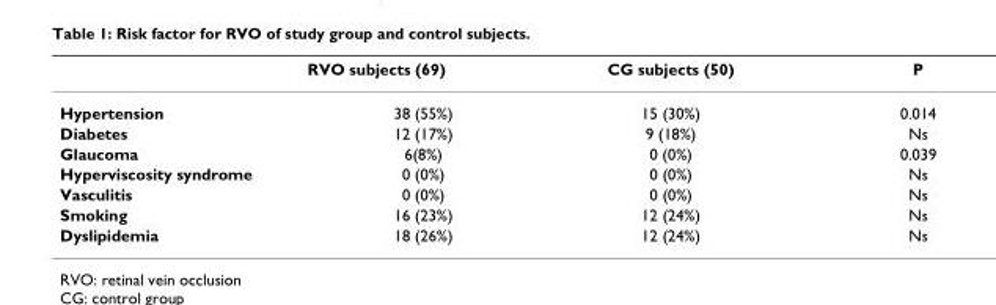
<table><thead><tr><td></td><td>RVO subjects (69)</td><td>CG subjects (50)</td><td>P</td></tr></thead><tbody><tr><td>Hypertension</td><td>38 (55%)</td><td>15 (30%)</td><td>0.014</td></tr><tr><td>Diabetes</td><td>12 (17%)</td><td>9 (18%)</td><td>Ns</td></tr><tr><td>Glaucoma</td><td>6(8%)</td><td>0 (0%)</td><td>0.039</td></tr><tr><td>Hyperviscosity syndrome</td><td>0 (0%)</td><td>0 (0%)</td><td>Ns</td></tr><tr><td>Vasculitis</td><td>0 (0%)</td><td>0 (0%)</td><td>Ns</td></tr><tr><td>Smoking</td><td>16 (23%)</td><td>12 (24%)</td><td>Ns</td></tr><tr><td>Dyslipidemia</td><td>18 (26%)</td><td>12 (24%)</td><td>Ns</td></tr></tbody></table>